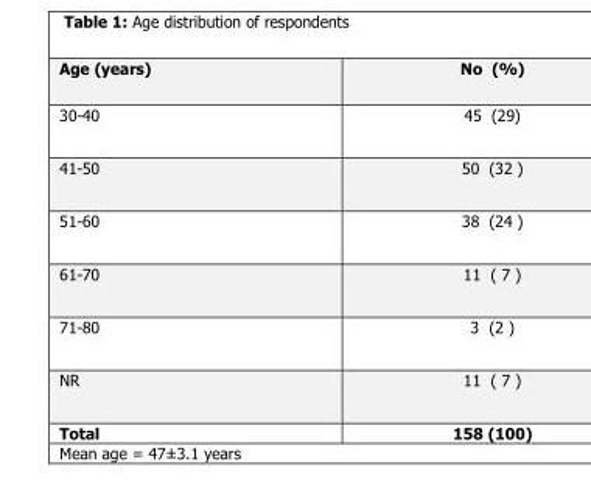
<table><thead><tr><td>Age (years)</td><td>No (%)</td></tr></thead><tbody><tr><td>30-40</td><td>45 (29)</td></tr><tr><td>41-50</td><td>50 (32 )</td></tr><tr><td>51-60</td><td>38 (24 )</td></tr><tr><td>61-70</td><td>11 ( 7 )</td></tr><tr><td>71-80</td><td>3 (2 )</td></tr><tr><td>NR</td><td>11 ( 7 )</td></tr><tr><td>Total</td><td>158 (100)</td></tr></tbody></table>